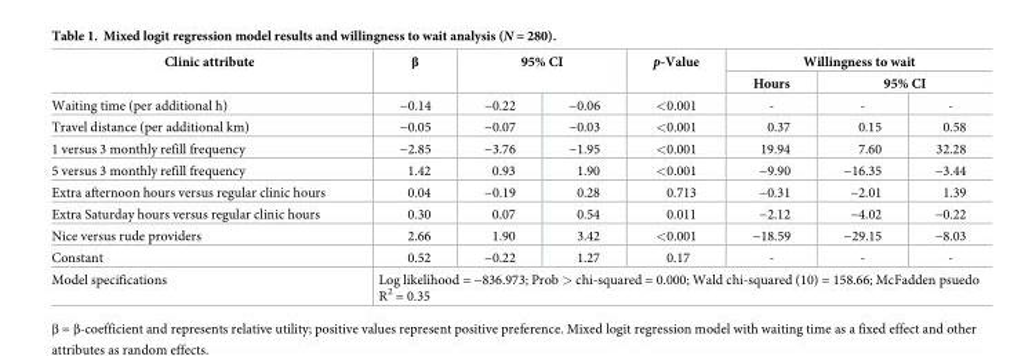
<table><thead><tr><td rowspan="3">Clinic attribute Waiting time (per additional h)</td><td rowspan="3">β −0.14</td><td rowspan="2" colspan="2">95% CI</td><td rowspan="3">p-Value &lt;0.001</td><td colspan="3">Willingness to wait</td></tr><tr><td rowspan="2">Hours -</td><td colspan="2">95% CI</td></tr><tr><td>−0.22</td><td>−0.06</td><td>-</td><td>-</td></tr></thead><tbody><tr><td>Travel distance (per additional km)</td><td>−0.05</td><td>−0.07</td><td>−0.03</td><td>&lt;0.001</td><td>0.37</td><td>0.15</td><td>0.58</td></tr><tr><td>1 versus 3 monthly refill frequency</td><td>−2.85</td><td>−3.76</td><td>−1.95</td><td>&lt;0.001</td><td>19.94</td><td>7.60</td><td>32.28</td></tr><tr><td>5 versus 3 monthly refill frequency</td><td>1.42</td><td>0.93</td><td>1.90</td><td>&lt;0.001</td><td>−9.90</td><td>−16.35</td><td>−3.44</td></tr><tr><td>Extra afternoon hours versus regular clinic hours</td><td>0.04</td><td>−0.19</td><td>0.28</td><td>0.713</td><td>−0.31</td><td>−2.01</td><td>1.39</td></tr><tr><td>Extra Saturday hours versus regular clinic hours</td><td>0.30</td><td>0.07</td><td>0.54</td><td>0.011</td><td>−2.12</td><td>−4.02</td><td>−0.22</td></tr><tr><td>Nice versus rude providers</td><td>2.66</td><td>1.90</td><td>3.42</td><td>&lt;0.001</td><td>−18.59</td><td>−29.15</td><td>−8.03</td></tr><tr><td>Constant</td><td>0.52</td><td>−0.22</td><td>1.27</td><td>0.17</td><td>-</td><td>-</td><td>-</td></tr><tr><td>Model specifications</td><td colspan="7">Log likelihood = −836.973; Prob &gt; chi-squared = 0.000; Wald chi-squared (10) = 158.66; McFadden psuedo R<sup>2</sup> = 0.35</td></tr></tbody></table>